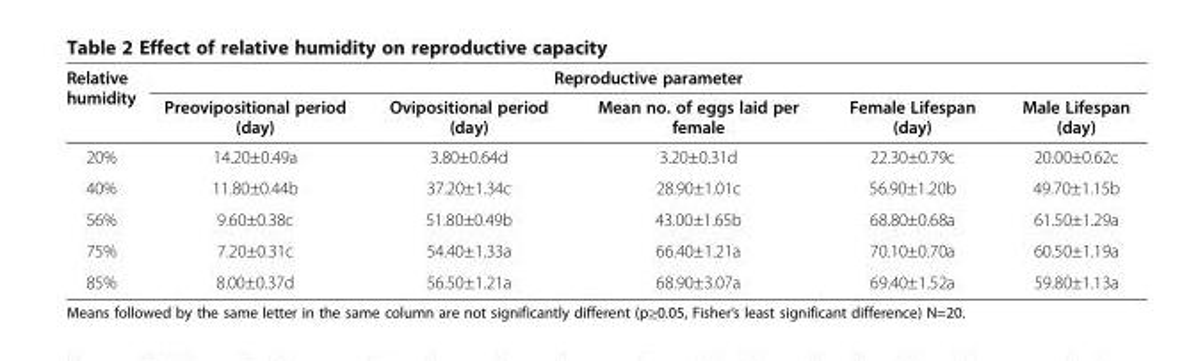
<table><thead><tr><td rowspan="2">Relative humidity</td><td colspan="5">Reproductive parameter</td></tr><tr><td>Preovipositional period (day)</td><td>Ovipositional period (day)</td><td>Mean no. of eggs laid per female</td><td>Female Lifespan (day)</td><td>Male Lifespan (day)</td></tr></thead><tbody><tr><td>20%</td><td>14.20±0.49a</td><td>3.80±0.64d</td><td>3.20±0.31d</td><td>22.30±0.79c</td><td>20.00±0.62c</td></tr><tr><td>40%</td><td>11.80±0.44b</td><td>37.20±1.34c</td><td>28.90±1.01c</td><td>56.90±1.20b</td><td>49.70±1.15b</td></tr><tr><td>56%</td><td>9.60±0.38c</td><td>51.80±0.49b</td><td>43.00±1.65b</td><td>68.80±0.68a</td><td>61.50±1.29a</td></tr><tr><td>75%</td><td>7.20±0.31c</td><td>54.40±1.33a</td><td>66.40±1.21a</td><td>70.10±0.70a</td><td>60.50±1.19a</td></tr><tr><td>85%</td><td>8.00±0.37d</td><td>56.50±1.21a</td><td>68.90±3.07a</td><td>69.40±1.52a</td><td>59.80±1.13a</td></tr></tbody></table>